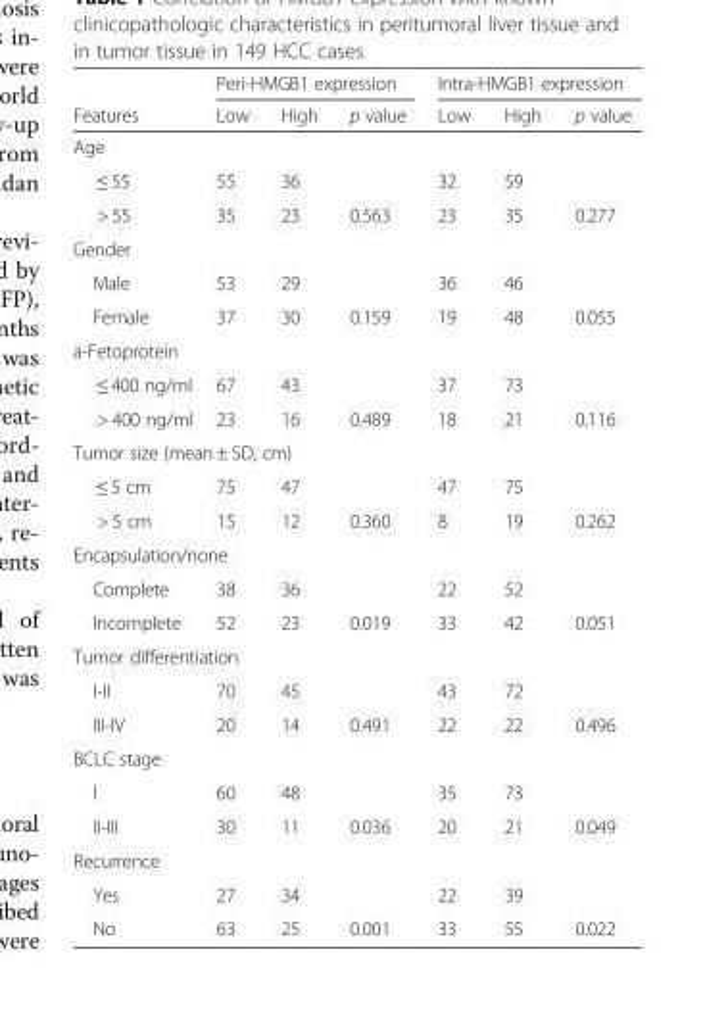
<table><thead><tr><td rowspan="2">Features</td><td colspan="3">Peri-HMGB1 expression</td><td colspan="3">Intra-HMGB1 expression</td></tr><tr><td>Low</td><td>High</td><td>p value</td><td>Low</td><td>High</td><td>p value</td></tr></thead><tbody><tr><td colspan="7">Age</td></tr><tr><td>≤ 55</td><td>55</td><td>36</td><td></td><td>32</td><td>59</td><td></td></tr><tr><td>&gt; 55</td><td>35</td><td>23</td><td>0.563</td><td>23</td><td>35</td><td>0.277</td></tr><tr><td colspan="7">Gender</td></tr><tr><td>Male</td><td>53</td><td>29</td><td></td><td>36</td><td>46</td><td></td></tr><tr><td>Female</td><td>37</td><td>30</td><td>0.159</td><td>19</td><td>48</td><td>0.055</td></tr><tr><td colspan="7">a-Fetoprotein</td></tr><tr><td>≤ 400 ng/ml</td><td>67</td><td>43</td><td></td><td>37</td><td>73</td><td></td></tr><tr><td>&gt; 400 ng/ml</td><td>23</td><td>16</td><td>0.489</td><td>18</td><td>21</td><td>0.116</td></tr><tr><td colspan="7">Tumor size (mean ± SD, cm)</td></tr><tr><td>≤ 5 cm</td><td>75</td><td>47</td><td></td><td>47</td><td>75</td><td></td></tr><tr><td>&gt; 5 cm</td><td>15</td><td>12</td><td>0.360</td><td>8</td><td>19</td><td>0.262</td></tr><tr><td colspan="7">Encapsulation/none</td></tr><tr><td>Complete</td><td>38</td><td>36</td><td></td><td>22</td><td>52</td><td></td></tr><tr><td>Incomplete</td><td>52</td><td>23</td><td>0.019</td><td>33</td><td>42</td><td>0.051</td></tr><tr><td colspan="7">Tumor differentiation</td></tr><tr><td>I-II</td><td>70</td><td>45</td><td></td><td>43</td><td>72</td><td></td></tr><tr><td>III-IV</td><td>20</td><td>14</td><td>0.491</td><td>22</td><td>22</td><td>0.496</td></tr><tr><td colspan="7">BCLC stage</td></tr><tr><td>I</td><td>60</td><td>48</td><td></td><td>35</td><td>73</td><td></td></tr><tr><td>II-III</td><td>30</td><td>11</td><td>0.036</td><td>20</td><td>21</td><td>0.049</td></tr><tr><td colspan="7">Recurrence</td></tr><tr><td>Yes</td><td>27</td><td>34</td><td></td><td>22</td><td>39</td><td></td></tr><tr><td>No</td><td>63</td><td>25</td><td>0.001</td><td>33</td><td>55</td><td>0.022</td></tr></tbody></table>